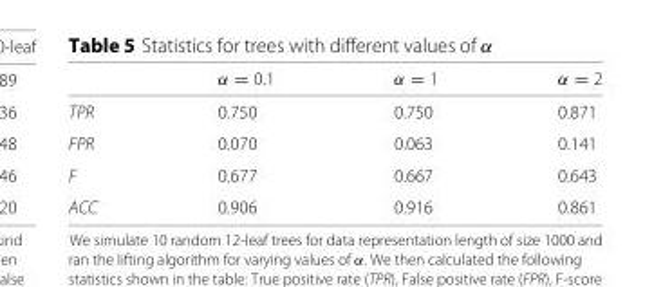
<table><thead><tr><td></td><td>α = 0.1</td><td>α = 1</td><td>α = 2</td></tr></thead><tbody><tr><td>TPR</td><td>0.750</td><td>0.750</td><td>0.871</td></tr><tr><td>FPR</td><td>0.070</td><td>0.063</td><td>0.141</td></tr><tr><td>F</td><td>0.677</td><td>0.667</td><td>0.643</td></tr><tr><td>ACC</td><td>0.906</td><td>0.916</td><td>0.861</td></tr></tbody></table>